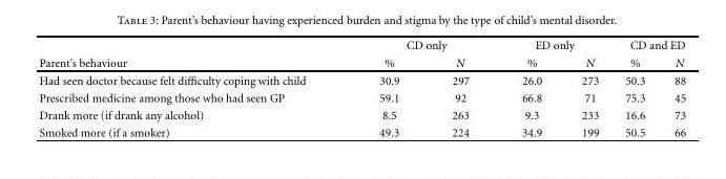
<table><thead><tr><td rowspan="2">Parent’s behaviour</td><td colspan="2">CD only</td><td colspan="2">ED only</td><td colspan="2">CD and ED</td></tr><tr><td>%</td><td>N</td><td>%</td><td>N</td><td>%</td><td>N</td></tr></thead><tbody><tr><td>Had seen doctor because felt difficulty coping with child</td><td>30.9</td><td>297</td><td>26.0</td><td>273</td><td>50.3</td><td>88</td></tr><tr><td>Prescribed medicine among those who had seen GP</td><td>59.1</td><td>92</td><td>66.8</td><td>71</td><td>75.3</td><td>45</td></tr><tr><td>Drank more (if drank any alcohol)</td><td>8.5</td><td>263</td><td>9.3</td><td>233</td><td>16.6</td><td>73</td></tr><tr><td>Smoked more (if a smoker)</td><td>49.3</td><td>224</td><td>34.9</td><td>199</td><td>50.5</td><td>66</td></tr></tbody></table>